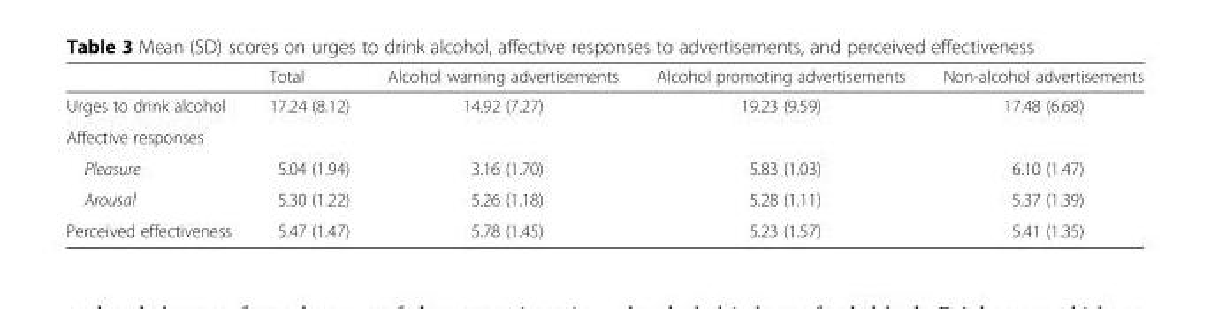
<table><thead><tr><td></td><td>Total</td><td>Alcohol warning advertisements</td><td>Alcohol promoting advertisements</td><td>Non-alcohol advertisements</td></tr></thead><tbody><tr><td>Urges to drink alcohol</td><td>17.24 (8.12)</td><td>14.92 (7.27)</td><td>19.23 (9.59)</td><td>17.48 (6.68)</td></tr><tr><td colspan="5">Affective responses</td></tr><tr><td>Pleasure</td><td>5.04 (1.94)</td><td>3.16 (1.70)</td><td>5.83 (1.03)</td><td>6.10 (1.47)</td></tr><tr><td>Arousal</td><td>5.30 (1.22)</td><td>5.26 (1.18)</td><td>5.28 (1.11)</td><td>5.37 (1.39)</td></tr><tr><td>Perceived effectiveness</td><td>5.47 (1.47)</td><td>5.78 (1.45)</td><td>5.23 (1.57)</td><td>5.41 (1.35)</td></tr></tbody></table>